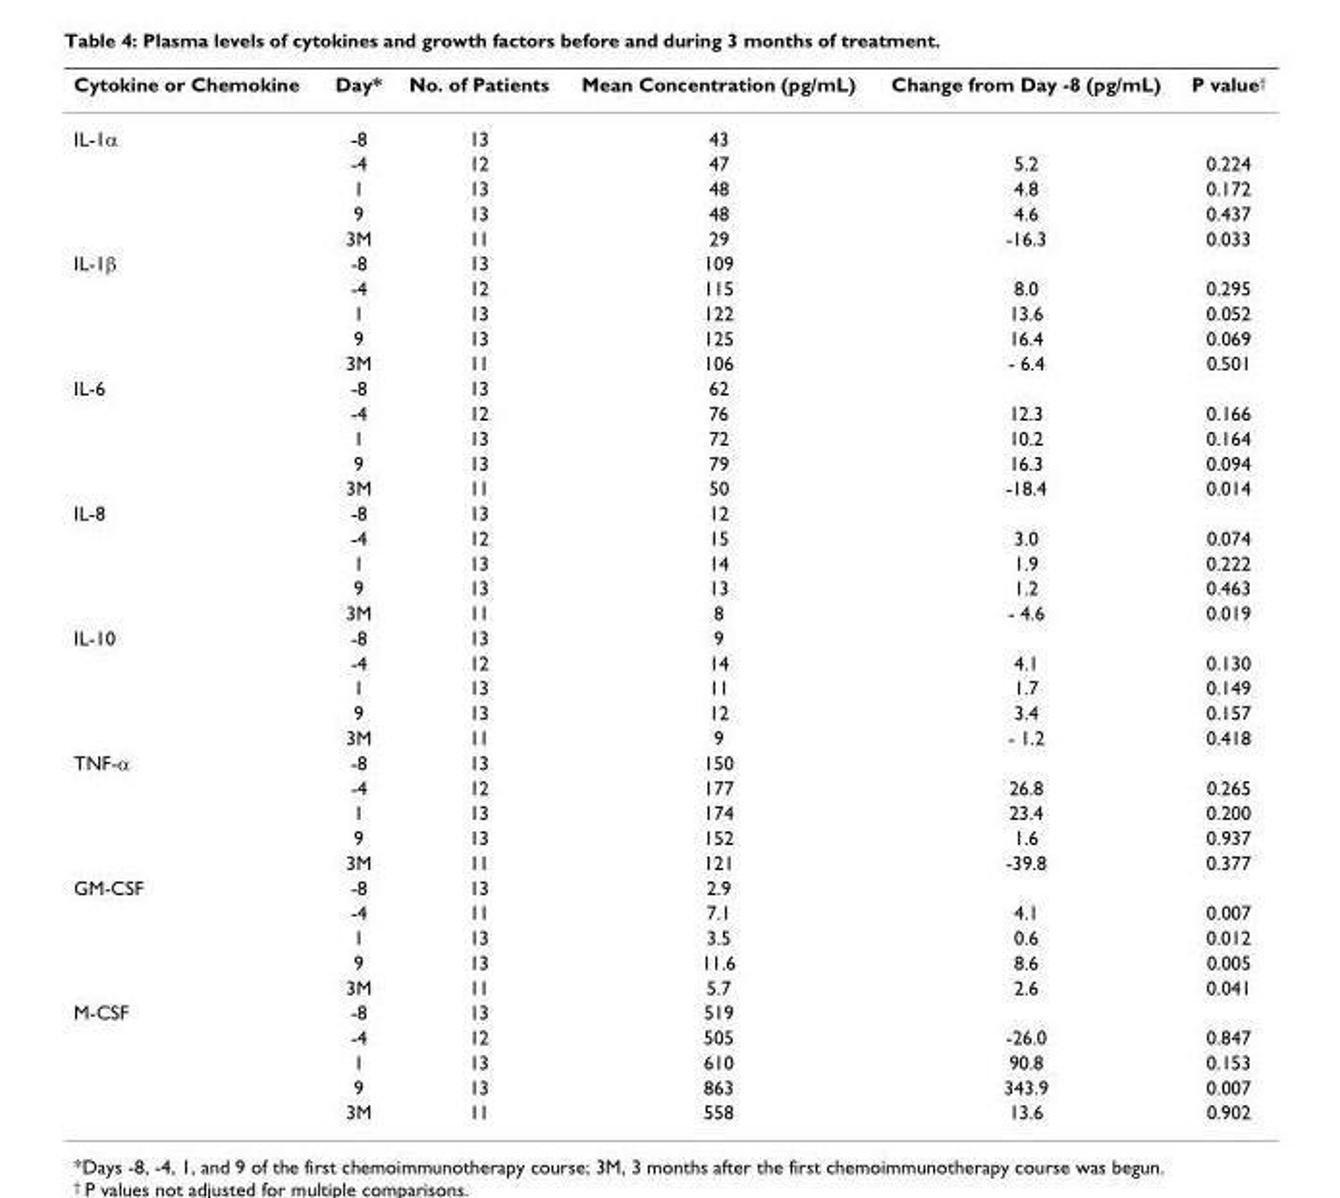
<table><thead><tr><td>Cytokine or Chemokine</td><td>Day*</td><td>No. of Patients</td><td>Mean Concentration (pg/mL)</td><td>Change from Day -8 (pg/mL)</td><td>P value<sup>†</sup></td></tr></thead><tbody><tr><td rowspan="5">IL-1α</td><td>-8</td><td>13</td><td>43</td><td></td><td></td></tr><tr><td>-4</td><td>12</td><td>47</td><td>5.2</td><td>0.224</td></tr><tr><td>1</td><td>13</td><td>48</td><td>4.8</td><td>0.172</td></tr><tr><td>9</td><td>13</td><td>48</td><td>4.6</td><td>0.437</td></tr><tr><td>3M</td><td>11</td><td>29</td><td>-16.3</td><td>0.033</td></tr><tr><td rowspan="5">IL-1β</td><td>-8</td><td>13</td><td>109</td><td></td><td></td></tr><tr><td>-4</td><td>12</td><td>115</td><td>8.0</td><td>0.295</td></tr><tr><td>1</td><td>13</td><td>122</td><td>13.6</td><td>0.052</td></tr><tr><td>9</td><td>13</td><td>125</td><td>16.4</td><td>0.069</td></tr><tr><td>3M</td><td>11</td><td>106</td><td>- 6.4</td><td>0.501</td></tr><tr><td rowspan="5">IL-6</td><td>-8</td><td>13</td><td>62</td><td></td><td></td></tr><tr><td>-4</td><td>12</td><td>76</td><td>12.3</td><td>0.166</td></tr><tr><td>1</td><td>13</td><td>72</td><td>10.2</td><td>0.164</td></tr><tr><td>9</td><td>13</td><td>79</td><td>16.3</td><td>0.094</td></tr><tr><td>3M</td><td>11</td><td>50</td><td>-18.4</td><td>0.014</td></tr><tr><td rowspan="5">IL-8</td><td>-8</td><td>13</td><td>12</td><td></td><td></td></tr><tr><td>-4</td><td>12</td><td>15</td><td>3.0</td><td>0.074</td></tr><tr><td>1</td><td>13</td><td>14</td><td>1.9</td><td>0.222</td></tr><tr><td>9</td><td>13</td><td>13</td><td>1.2</td><td>0.463</td></tr><tr><td>3M</td><td>11</td><td>8</td><td>- 4.6</td><td>0.019</td></tr><tr><td rowspan="5">IL-10</td><td>-8</td><td>13</td><td>9</td><td></td><td></td></tr><tr><td>-4</td><td>12</td><td>14</td><td>4.1</td><td>0.130</td></tr><tr><td>1</td><td>13</td><td>11</td><td>1.7</td><td>0.149</td></tr><tr><td>9</td><td>13</td><td>12</td><td>3.4</td><td>0.157</td></tr><tr><td>3M</td><td>11</td><td>9</td><td>- 1.2</td><td>0.418</td></tr><tr><td rowspan="5">TNF-α</td><td>-8</td><td>13</td><td>150</td><td></td><td></td></tr><tr><td>-4</td><td>12</td><td>177</td><td>26.8</td><td>0.265</td></tr><tr><td>1</td><td>13</td><td>174</td><td>23.4</td><td>0.200</td></tr><tr><td>9</td><td>13</td><td>152</td><td>1.6</td><td>0.937</td></tr><tr><td>3M</td><td>11</td><td>121</td><td>-39.8</td><td>0.377</td></tr><tr><td rowspan="5">GM-CSF</td><td>-8</td><td>13</td><td>2.9</td><td></td><td></td></tr><tr><td>-4</td><td>11</td><td>7.1</td><td>4.1</td><td>0.007</td></tr><tr><td>1</td><td>13</td><td>3.5</td><td>0.6</td><td>0.012</td></tr><tr><td>9</td><td>13</td><td>11.6</td><td>8.6</td><td>0.005</td></tr><tr><td>3M</td><td>11</td><td>5.7</td><td>2.6</td><td>0.041</td></tr><tr><td rowspan="5">M-CSF</td><td>-8</td><td>13</td><td>519</td><td></td><td></td></tr><tr><td>-4</td><td>12</td><td>505</td><td>-26.0</td><td>0.847</td></tr><tr><td>1</td><td>13</td><td>610</td><td>90.8</td><td>0.153</td></tr><tr><td>9</td><td>13</td><td>863</td><td>343.9</td><td>0.007</td></tr><tr><td>3M</td><td>11</td><td>558</td><td>13.6</td><td>0.902</td></tr></tbody></table>